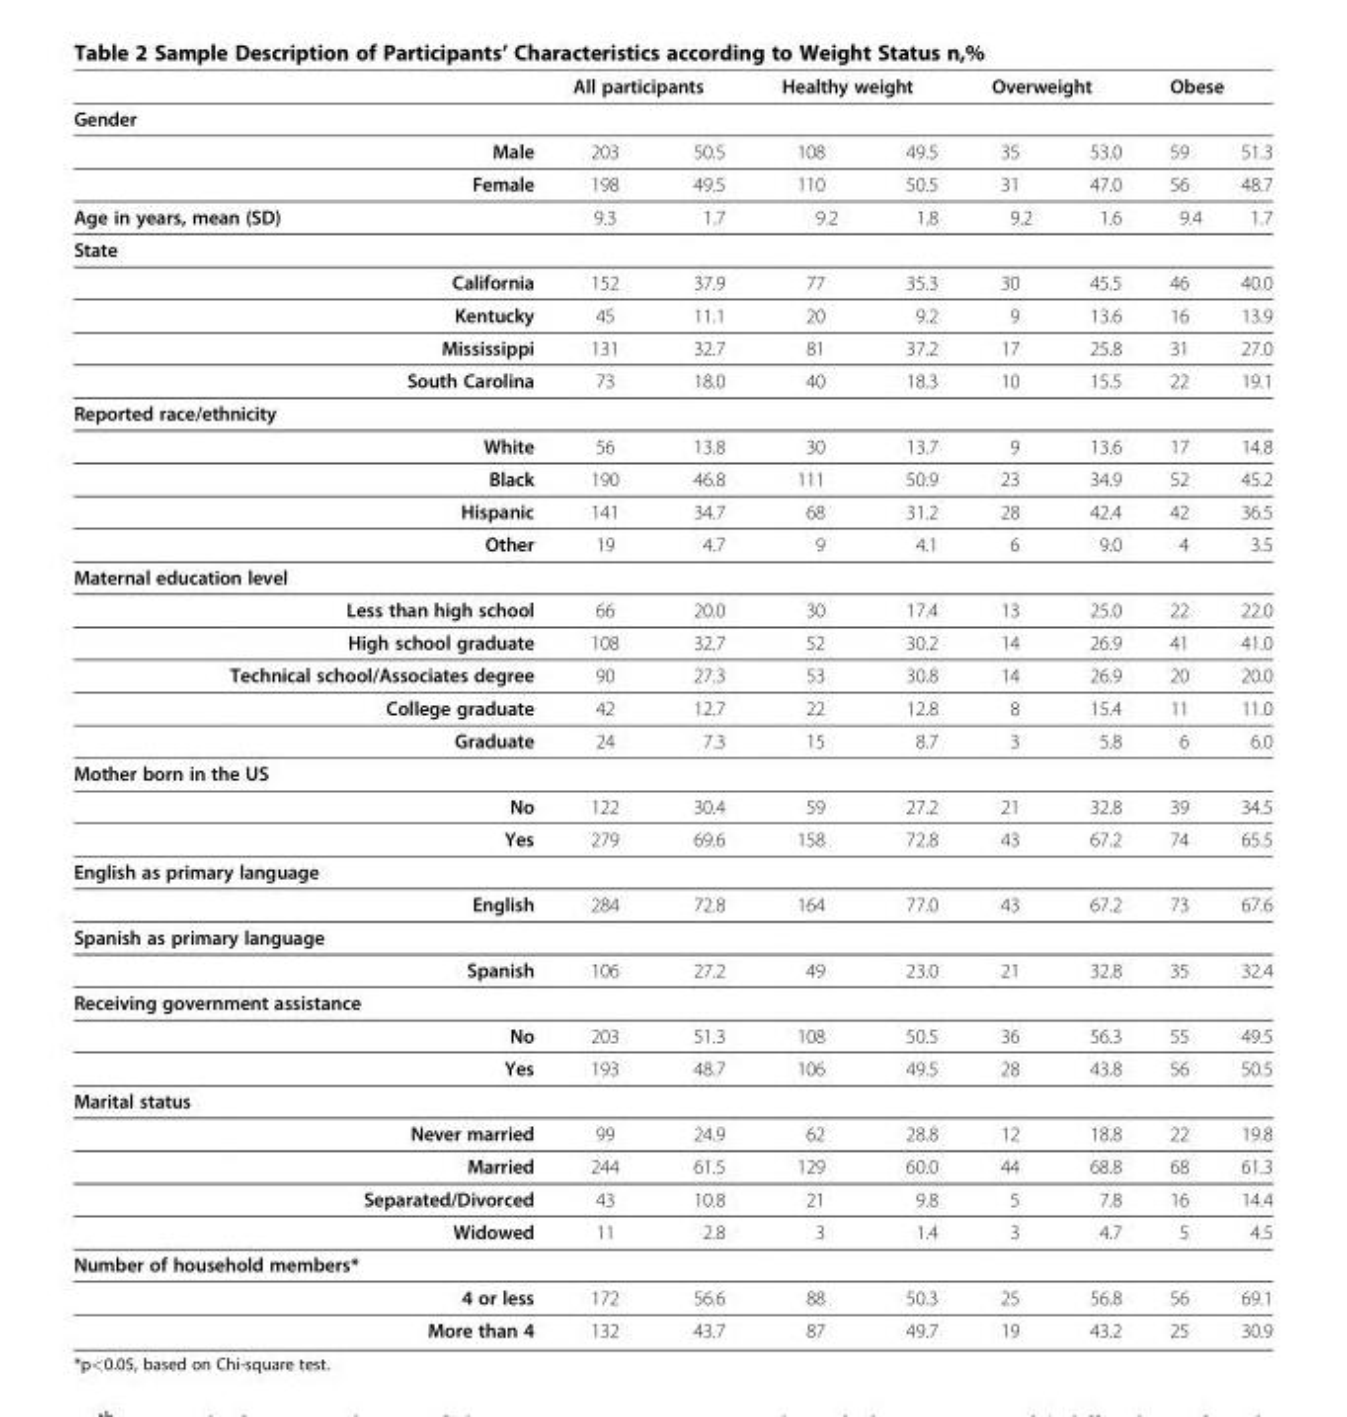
<table><thead><tr><td rowspan="2">Gender</td><td rowspan="2"></td><td colspan="2">All participants</td><td colspan="2">Healthy weight</td><td colspan="2">Overweight</td><td colspan="2">Obese</td></tr><tr><td></td><td></td><td></td><td></td><td></td><td></td><td></td><td></td></tr></thead><tbody><tr><td></td><td>Male</td><td>203</td><td>50.5</td><td>108</td><td>49.5</td><td>35</td><td>53.0</td><td>59</td><td>51.3</td></tr><tr><td></td><td>Female</td><td>198</td><td>49.5</td><td>110</td><td>50.5</td><td>31</td><td>47.0</td><td>56</td><td>48.7</td></tr><tr><td colspan="2">Age in years, mean (SD)</td><td>9.3</td><td>1.7</td><td>9.2</td><td>1.8</td><td>9.2</td><td>1.6</td><td>9.4</td><td>1.7</td></tr><tr><td colspan="10">State</td></tr><tr><td></td><td>California</td><td>152</td><td>37.9</td><td>77</td><td>35.3</td><td>30</td><td>45.5</td><td>46</td><td>40.0</td></tr><tr><td></td><td>Kentucky</td><td>45</td><td>11.1</td><td>20</td><td>9.2</td><td>9</td><td>13.6</td><td>16</td><td>13.9</td></tr><tr><td></td><td>Mississippi</td><td>131</td><td>32.7</td><td>81</td><td>37.2</td><td>17</td><td>25.8</td><td>31</td><td>27.0</td></tr><tr><td></td><td>South Carolina</td><td>73</td><td>18.0</td><td>40</td><td>18.3</td><td>10</td><td>15.5</td><td>22</td><td>19.1</td></tr><tr><td colspan="10">Reported race/ethnicity</td></tr><tr><td></td><td>White</td><td>56</td><td>13.8</td><td>30</td><td>13.7</td><td>9</td><td>13.6</td><td>17</td><td>14.8</td></tr><tr><td></td><td>Black</td><td>190</td><td>46.8</td><td>111</td><td>50.9</td><td>23</td><td>34.9</td><td>52</td><td>45.2</td></tr><tr><td></td><td>Hispanic</td><td>141</td><td>34.7</td><td>68</td><td>31.2</td><td>28</td><td>42.4</td><td>42</td><td>36.5</td></tr><tr><td></td><td>Other</td><td>19</td><td>4.7</td><td>9</td><td>4.1</td><td>6</td><td>9.0</td><td>4</td><td>3.5</td></tr><tr><td colspan="10">Maternal education level</td></tr><tr><td></td><td>Less than high school</td><td>66</td><td>20.0</td><td>30</td><td>17.4</td><td>13</td><td>25.0</td><td>22</td><td>22.0</td></tr><tr><td></td><td>High school graduate</td><td>108</td><td>32.7</td><td>52</td><td>30.2</td><td>14</td><td>26.9</td><td>41</td><td>41.0</td></tr><tr><td></td><td>Technical school/Associates degree</td><td>90</td><td>27.3</td><td>53</td><td>30.8</td><td>14</td><td>26.9</td><td>20</td><td>20.0</td></tr><tr><td></td><td>College graduate</td><td>42</td><td>12.7</td><td>22</td><td>12.8</td><td>8</td><td>15.4</td><td>11</td><td>11.0</td></tr><tr><td></td><td>Graduate</td><td>24</td><td>7.3</td><td>15</td><td>8.7</td><td>3</td><td>5.8</td><td>6</td><td>6.0</td></tr><tr><td colspan="10">Mother born in the US</td></tr><tr><td></td><td>No</td><td>122</td><td>30.4</td><td>59</td><td>27.2</td><td>21</td><td>32.8</td><td>39</td><td>34.5</td></tr><tr><td></td><td>Yes</td><td>279</td><td>69.6</td><td>158</td><td>72.8</td><td>43</td><td>67.2</td><td>74</td><td>65.5</td></tr><tr><td colspan="10">English as primary language</td></tr><tr><td></td><td>English</td><td>284</td><td>72.8</td><td>164</td><td>77.0</td><td>43</td><td>67.2</td><td>73</td><td>67.6</td></tr><tr><td colspan="10">Spanish as primary language</td></tr><tr><td></td><td>Spanish</td><td>106</td><td>27.2</td><td>49</td><td>23.0</td><td>21</td><td>32.8</td><td>35</td><td>32.4</td></tr><tr><td colspan="10">Receiving government assistance</td></tr><tr><td></td><td>No</td><td>203</td><td>51.3</td><td>108</td><td>50.5</td><td>36</td><td>56.3</td><td>55</td><td>49.5</td></tr><tr><td></td><td>Yes</td><td>193</td><td>48.7</td><td>106</td><td>49.5</td><td>28</td><td>43.8</td><td>56</td><td>50.5</td></tr><tr><td colspan="10">Marital status</td></tr><tr><td></td><td>Never married</td><td>99</td><td>24.9</td><td>62</td><td>28.8</td><td>12</td><td>18.8</td><td>22</td><td>19.8</td></tr><tr><td></td><td>Married</td><td>244</td><td>61.5</td><td>129</td><td>60.0</td><td>44</td><td>68.8</td><td>68</td><td>61.3</td></tr><tr><td></td><td>Separated/Divorced</td><td>43</td><td>10.8</td><td>21</td><td>9.8</td><td>5</td><td>7.8</td><td>16</td><td>14.4</td></tr><tr><td></td><td>Widowed</td><td>11</td><td>2.8</td><td>3</td><td>1.4</td><td>3</td><td>4.7</td><td>5</td><td>4.5</td></tr><tr><td colspan="10">Number of household members*</td></tr><tr><td></td><td>4 or less</td><td>172</td><td>56.6</td><td>88</td><td>50.3</td><td>25</td><td>56.8</td><td>56</td><td>69.1</td></tr><tr><td></td><td>More than 4</td><td>132</td><td>43.7</td><td>87</td><td>49.7</td><td>19</td><td>43.2</td><td>25</td><td>30.9</td></tr></tbody></table>